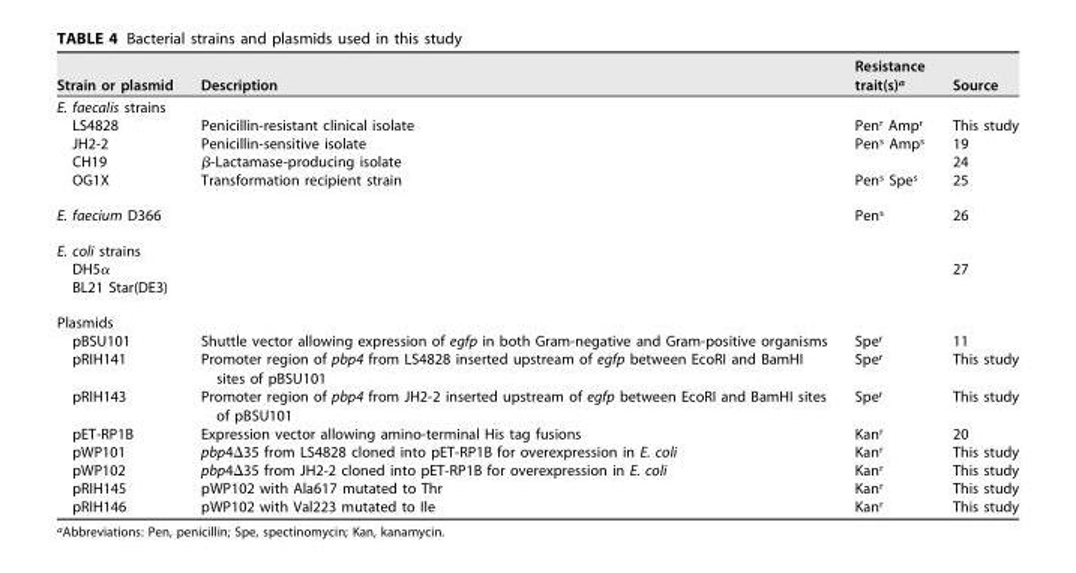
<table><thead><tr><td>Strain or plasmid</td><td>Description</td><td>Resistance trait(s)<sup>a</sup></td><td>Source</td></tr></thead><tbody><tr><td colspan="4">E. faecalis strains</td></tr><tr><td>LS4828</td><td>Penicillin-resistant clinical isolate</td><td>Pen<sup>r</sup> Amp<sup>r</sup></td><td>This study</td></tr><tr><td>JH2-2</td><td>Penicillin-sensitive isolate</td><td>Pen<sup>s</sup> Amp<sup>s</sup></td><td>19</td></tr><tr><td>CH19</td><td>β-Lactamase-producing isolate</td><td></td><td>24</td></tr><tr><td>OG1X</td><td>Transformation recipient strain</td><td>Pen<sup>s</sup> Spe<sup>s</sup></td><td>25</td></tr><tr><td>E. faecium D366</td><td></td><td>Pen<sup>s</sup></td><td>26</td></tr><tr><td colspan="4">E. coli strains</td></tr><tr><td>DH5α</td><td></td><td></td><td>27</td></tr><tr><td colspan="4">BL21 Star(DE3)</td></tr><tr><td colspan="4">Plasmids</td></tr><tr><td>pBSU101</td><td>Shuttle vector allowing expression of egfp in both Gram-negative and Gram-positive organisms</td><td>Spe<sup>r</sup></td><td>11</td></tr><tr><td>pRIH141</td><td>Promoter region of pbp4 from LS4828 inserted upstream of egfp between EcoRI and BamHI sites of pBSU101</td><td>Spe<sup>r</sup></td><td>This study</td></tr><tr><td>pRIH143</td><td>Promoter region of pbp4 from JH2-2 inserted upstream of egfp between EcoRI and BamHI sites of pBSU101</td><td>Spe<sup>r</sup></td><td>This study</td></tr><tr><td>pET-RP1B</td><td>Expression vector allowing amino-terminal His tag fusions</td><td>Kan<sup>r</sup></td><td>20</td></tr><tr><td>pWP101</td><td>pbp4Δ35 from LS4828 cloned into pET-RP1B for overexpression in E. coli</td><td>Kan<sup>r</sup></td><td>This study</td></tr><tr><td>pWP102</td><td>pbp4Δ35 from JH2-2 cloned into pET-RP1B for overexpression in E. coli</td><td>Kan<sup>r</sup></td><td>This study</td></tr><tr><td>pRIH145</td><td>pWP102 with Ala617 mutated to Thr</td><td>Kan<sup>r</sup></td><td>This study</td></tr><tr><td>pRIH146</td><td>pWP102 with Val223 mutated to Ile</td><td>Kan<sup>r</sup></td><td>This study</td></tr></tbody></table>